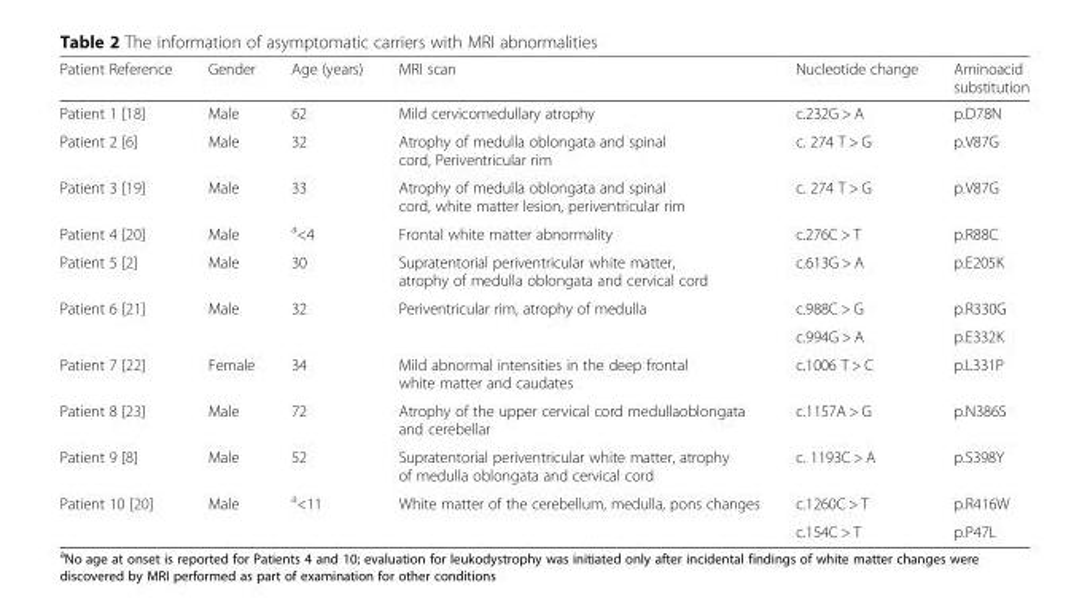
<table><thead><tr><td>Patient Reference</td><td>Gender</td><td>Age (years)</td><td>MRI scan</td><td>Nucleotide change</td><td>Aminoacid substitution</td></tr></thead><tbody><tr><td>Patient 1 [18]</td><td>Male</td><td>62</td><td>Mild cervicomedullary atrophy</td><td>c.232G &gt; A</td><td>p.D78N</td></tr><tr><td>Patient 2 [6]</td><td>Male</td><td>32</td><td>Atrophy of medulla oblongata and spinal cord, Periventricular rim</td><td>c. 274 T &gt; G</td><td>p.V87G</td></tr><tr><td>Patient 3 [19]</td><td>Male</td><td>33</td><td>Atrophy of medulla oblongata and spinal cord, white matter lesion, periventricular rim</td><td>c. 274 T &gt; G</td><td>p.V87G</td></tr><tr><td>Patient 4 [20]</td><td>Male</td><td><sup>a</sup>&lt;4</td><td>Frontal white matter abnormality</td><td>c.276C &gt; T</td><td>p.R88C</td></tr><tr><td>Patient 5 [2]</td><td>Male</td><td>30</td><td>Supratentorial periventricular white matter, atrophy of medulla oblongata and cervical cord</td><td>c.613G &gt; A</td><td>p.E205K</td></tr><tr><td rowspan="2">Patient 6 [21]</td><td rowspan="2">Male</td><td rowspan="2">32</td><td rowspan="2">Periventricular rim, atrophy of medulla</td><td>c.988C &gt; G</td><td>p.R330G</td></tr><tr><td>c.994G &gt; A</td><td>p.E332K</td></tr><tr><td>Patient 7 [22]</td><td>Female</td><td>34</td><td>Mild abnormal intensities in the deep frontal white matter and caudates</td><td>c.1006 T &gt; C</td><td>p.L331P</td></tr><tr><td>Patient 8 [23]</td><td>Male</td><td>72</td><td>Atrophy of the upper cervical cord medullaoblongata and cerebellar</td><td>c.1157A &gt; G</td><td>p.N386S</td></tr><tr><td>Patient 9 [8]</td><td>Male</td><td>52</td><td>Supratentorial periventricular white matter, atrophy of medulla oblongata and cervical cord</td><td>c. 1193C &gt; A</td><td>p.S398Y</td></tr><tr><td rowspan="2">Patient 10 [20]</td><td rowspan="2">Male</td><td rowspan="2"><sup>a</sup>&lt;11</td><td rowspan="2">White matter of the cerebellum, medulla, pons changes</td><td>c.1260C &gt; T</td><td>p.R416W</td></tr><tr><td>c.154C &gt; T</td><td>p.P47L</td></tr></tbody></table>